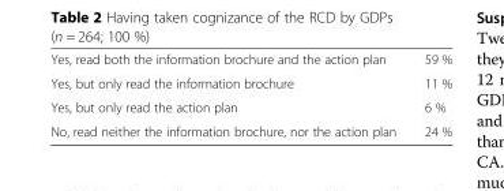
<table><tbody><tr><td>Yes, read both the information brochure and the action plan</td><td>59 %</td></tr><tr><td>Yes, but only read the information brochure</td><td>11 %</td></tr><tr><td>Yes, but only read the action plan</td><td>6 %</td></tr><tr><td>No, read neither the information brochure, nor the action plan</td><td>24 %</td></tr></tbody></table>